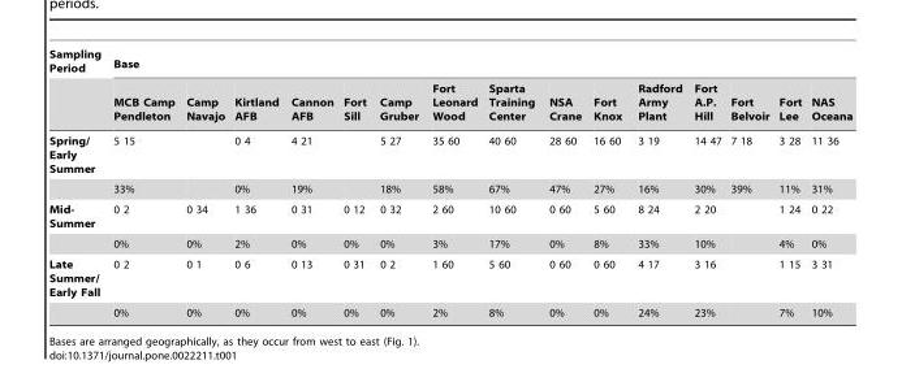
<table><thead><tr><td rowspan="2">Sampling Period</td><td colspan="15">Base</td></tr><tr><td>MCB Camp Pendleton</td><td>Camp Navajo</td><td>Kirtland AFB</td><td>Cannon AFB</td><td>Fort Sill</td><td>Camp Gruber</td><td>Fort Leonard Wood</td><td>Sparta Training Center</td><td>NSA Crane</td><td>Fort Knox</td><td>Radford Army Plant</td><td>Fort A.P. Hill</td><td>Fort Belvoir</td><td>Fort Lee</td><td>NAS Oceana</td></tr></thead><tbody><tr><td rowspan="2">Spring/ Early Summer</td><td>5 15</td><td></td><td>0 4</td><td>4 21</td><td></td><td>5 27</td><td>35 60</td><td>40 60</td><td>28 60</td><td>16 60</td><td>3 19</td><td>14 47</td><td>7 18</td><td>3 28</td><td>11 36</td></tr><tr><td>33%</td><td></td><td>0%</td><td>19%</td><td></td><td>18%</td><td>58%</td><td>67%</td><td>47%</td><td>27%</td><td>16%</td><td>30%</td><td>39%</td><td>11%</td><td>31%</td></tr><tr><td rowspan="2">Mid- Summer</td><td>0 2</td><td>0 34</td><td>1 36</td><td>0 31</td><td>0 12</td><td>0 32</td><td>2 60</td><td>10 60</td><td>0 60</td><td>5 60</td><td>8 24</td><td>2 20</td><td></td><td>1 24</td><td>0 22</td></tr><tr><td>0%</td><td>0%</td><td>2%</td><td>0%</td><td>0%</td><td>0%</td><td>3%</td><td>17%</td><td>0%</td><td>8%</td><td>33%</td><td>10%</td><td></td><td>4%</td><td>0%</td></tr><tr><td rowspan="2">Late Summer/ Early Fall</td><td>0 2</td><td>0 1</td><td>0 6</td><td>0 13</td><td>0 31</td><td>0 2</td><td>1 60</td><td>5 60</td><td>0 60</td><td>0 60</td><td>4 17</td><td>3 16</td><td></td><td>1 15</td><td>3 31</td></tr><tr><td>0%</td><td>0%</td><td>0%</td><td>0%</td><td>0%</td><td>0%</td><td>2%</td><td>8%</td><td>0%</td><td>0%</td><td>24%</td><td>23%</td><td></td><td>7%</td><td>10%</td></tr></tbody></table>